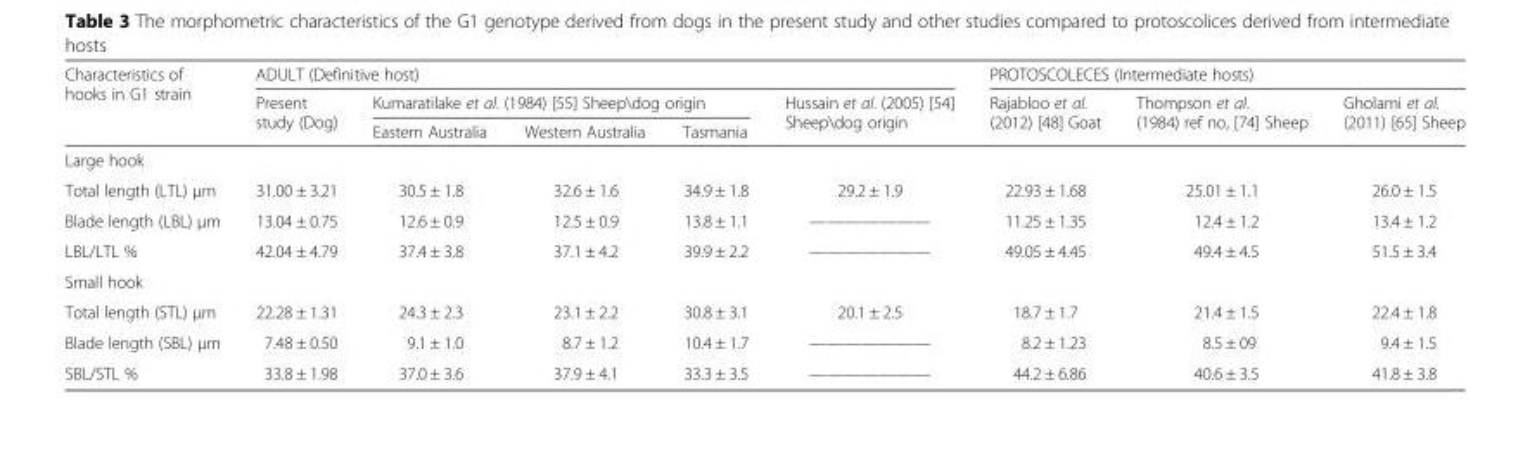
<table><thead><tr><td rowspan="3">Characteristics of hooks in G1 strain</td><td colspan="5">ADULT (Definitive host)</td><td colspan="3">PROTOSCOLECES (Intermediate hosts)</td></tr><tr><td rowspan="2">Present study (Dog)</td><td colspan="3">Kumaratilake et al. (1984) [55] Sheep\dog origin</td><td rowspan="2">Hussain et al. (2005) [54] Sheep\dog origin</td><td rowspan="2">Rajabloo et al. (2012) [48] Goat</td><td rowspan="2">Thompson et al. (1984) ref no, [74] Sheep</td><td rowspan="2">Gholami et al. (2011) [65] Sheep</td></tr><tr><td>Eastern Australia</td><td>Western Australia</td><td>Tasmania</td></tr></thead><tbody><tr><td colspan="9">Large hook</td></tr><tr><td>Total length (LTL) μm</td><td>31.00 ± 3.21</td><td>30.5 ± 1.8</td><td>32.6 ± 1.6</td><td>34.9 ± 1.8</td><td>29.2 ± 1.9</td><td>22.93 ± 1.68</td><td>25.01 ± 1.1</td><td>26.0 ± 1.5</td></tr><tr><td>Blade length (LBL) μm</td><td>13.04 ± 0.75</td><td>12.6 ± 0.9</td><td>12.5 ± 0.9</td><td>13.8 ± 1.1</td><td>———————</td><td>11.25 ± 1.35</td><td>12.4 ± 1.2</td><td>13.4 ± 1.2</td></tr><tr><td>LBL/LTL %</td><td>42.04 ± 4.79</td><td>37.4 ± 3.8</td><td>37.1 ± 4.2</td><td>39.9 ± 2.2</td><td>———————</td><td>49.05 ± 4.45</td><td>49.4 ± 4.5</td><td>51.5 ± 3.4</td></tr><tr><td colspan="9">Small hook</td></tr><tr><td>Total length (STL) μm</td><td>22.28 ± 1.31</td><td>24.3 ± 2.3</td><td>23.1 ± 2.2</td><td>30.8 ± 3.1</td><td>20.1 ± 2.5</td><td>18.7 ± 1.7</td><td>21.4 ± 1.5</td><td>22.4 ± 1.8</td></tr><tr><td>Blade length (SBL) μm</td><td>7.48 ± 0.50</td><td>9.1 ± 1.0</td><td>8.7 ± 1.2</td><td>10.4 ± 1.7</td><td>———————</td><td>8.2 ± 1.23</td><td>8.5 ± 09</td><td>9.4 ± 1.5</td></tr><tr><td>SBL/STL %</td><td>33.8 ± 1.98</td><td>37.0 ± 3.6</td><td>37.9 ± 4.1</td><td>33.3 ± 3.5</td><td>———————</td><td>44.2 ± 6.86</td><td>40.6 ± 3.5</td><td>41.8 ± 3.8</td></tr></tbody></table>